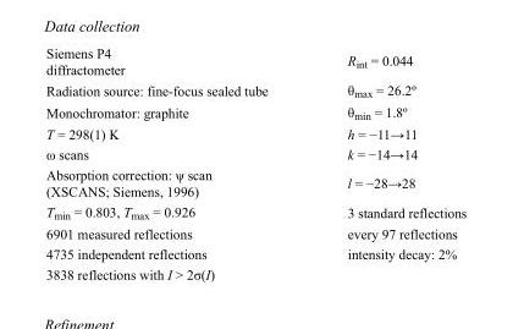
<table><tbody><tr><td>Siemens P4 diffractometer</td><td>R<sub>int</sub> = 0.044</td></tr><tr><td>Radiation source: fine-focus sealed tube</td><td>θ<sub>max</sub> = 26.2º</td></tr><tr><td>Monochromator: graphite</td><td>θ<sub>min</sub> = 1.8º</td></tr><tr><td>T = 298(1) K</td><td>h = −11→11</td></tr><tr><td>ω scans</td><td>k = −14→14</td></tr><tr><td>Absorption correction: ψ scan (XSCANS; Siemens, 1996)</td><td>l = −28→28</td></tr><tr><td>T<sub>min</sub> = 0.803, T<sub>max</sub> = 0.926</td><td>3 standard reflections</td></tr><tr><td>6901 measured reflections</td><td>every 97 reflections</td></tr><tr><td>4735 independent reflections</td><td>intensity decay: 2%</td></tr><tr><td>3838 reflections with I &gt; 2σ(I)</td><td></td></tr></tbody></table>